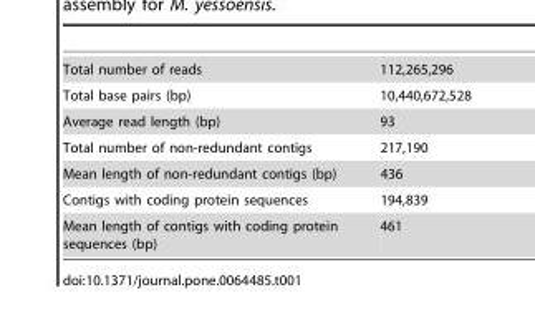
<table><tbody><tr><td>Total number of reads</td><td>112,265,296</td></tr><tr><td>Total base pairs (bp)</td><td>10,440,672,528</td></tr><tr><td>Average read length (bp)</td><td>93</td></tr><tr><td>Total number of non-redundant contigs</td><td>217,190</td></tr><tr><td>Mean length of non-redundant contigs (bp)</td><td>436</td></tr><tr><td>Contigs with coding protein sequences</td><td>194,839</td></tr><tr><td>Mean length of contigs with coding protein sequences (bp)</td><td>461</td></tr></tbody></table>